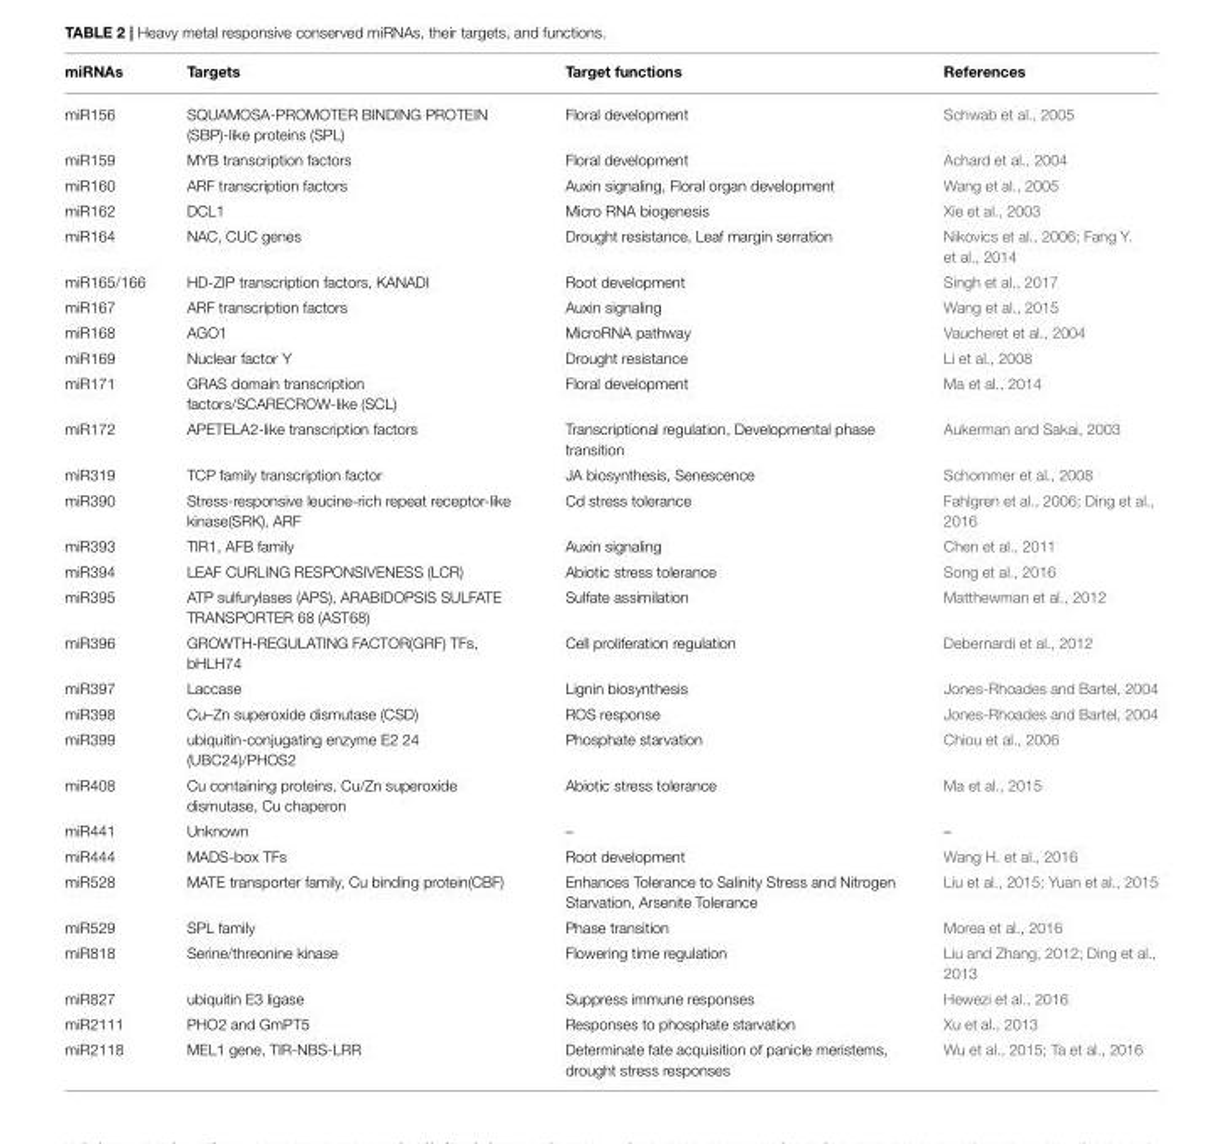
<table><thead><tr><td>miRNAs</td><td>Targets</td><td>Target functions</td><td>References</td></tr></thead><tbody><tr><td>miR156</td><td>SQUAMOSA-PROMOTER BINDING PROTEIN (SBP)-like proteins (SPL)</td><td>Floral development</td><td>Schwab et al., 2005</td></tr><tr><td>miR159</td><td>MYB transcription factors</td><td>Floral development</td><td>Achard et al., 2004</td></tr><tr><td>miR160</td><td>ARF transcription factors</td><td>Auxin signaling, Floral organ development</td><td>Wang et al., 2005</td></tr><tr><td>miR162</td><td>DCL1</td><td>Micro RNA biogenesis</td><td>Xie et al., 2003</td></tr><tr><td>miR164</td><td>NAC, CUC genes</td><td>Drought resistance, Leaf margin serration</td><td>Nikovics et al., 2006; Fang Y. et al., 2014</td></tr><tr><td>miR165/166</td><td>HD-ZIP transcription factors, KANADI</td><td>Root development</td><td>Singh et al., 2017</td></tr><tr><td>miR167</td><td>ARF transcription factors</td><td>Auxin signaling</td><td>Wang et al., 2015</td></tr><tr><td>miR168</td><td>AGO1</td><td>MicroRNA pathway</td><td>Vaucheret et al., 2004</td></tr><tr><td>miR169</td><td>Nuclear factor Y</td><td>Drought resistance</td><td>Li et al., 2008</td></tr><tr><td>miR171</td><td>GRAS domain transcription factors/SCARECROW-like (SCL)</td><td>Floral development</td><td>Ma et al., 2014</td></tr><tr><td>miR172</td><td>APETELA2-like transcription factors</td><td>Transcriptional regulation, Developmental phase transition</td><td>Aukerman and Sakai, 2003</td></tr><tr><td>miR319</td><td>TCP family transcription factor</td><td>JA biosynthesis, Senescence</td><td>Schommer et al., 2008</td></tr><tr><td>miR390</td><td>Stress-responsive leucine-rich repeat receptor-like kinase(SRK), ARF</td><td>Cd stress tolerance</td><td>Fahlgren et al., 2006; Ding et al., 2016</td></tr><tr><td>miR393</td><td>TIR1, AFB family</td><td>Auxin signaling</td><td>Chen et al., 2011</td></tr><tr><td>miR394</td><td>LEAF CURLING RESPONSIVENESS (LCR)</td><td>Abiotic stress tolerance</td><td>Song et al., 2016</td></tr><tr><td>miR395</td><td>ATP sulfurylases (APS), ARABIDOPSIS SULFATE TRANSPORTER 68 (AST68)</td><td>Sulfate assimilation</td><td>Matthewman et al., 2012</td></tr><tr><td>miR396</td><td>GROWTH-REGULATING FACTOR(GRF) TFs, bHLH74</td><td>Cell proliferation regulation</td><td>Debernardi et al., 2012</td></tr><tr><td>miR397</td><td>Laccase</td><td>Lignin biosynthesis</td><td>Jones-Rhoades and Bartel, 2004</td></tr><tr><td>miR398</td><td>Cu–Zn superoxide dismutase (CSD)</td><td>ROS response</td><td>Jones-Rhoades and Bartel, 2004</td></tr><tr><td>miR399</td><td>ubiquitin-conjugating enzyme E2 24 (UBC24)/PHOS2</td><td>Phosphate starvation</td><td>Chiou et al., 2006</td></tr><tr><td>miR408</td><td>Cu containing proteins, Cu/Zn superoxide dismutase, Cu chaperon</td><td>Abiotic stress tolerance</td><td>Ma et al., 2015</td></tr><tr><td>miR441</td><td>Unknown</td><td>–</td><td>–</td></tr><tr><td>miR444</td><td>MADS-box TFs</td><td>Root development</td><td>Wang H. et al., 2016</td></tr><tr><td>miR528</td><td>MATE transporter family, Cu binding protein(CBF)</td><td>Enhances Tolerance to Salinity Stress and Nitrogen Starvation, Arsenite Tolerance</td><td>Liu et al., 2015; Yuan et al., 2015</td></tr><tr><td>miR529</td><td>SPL family</td><td>Phase transition</td><td>Morea et al., 2016</td></tr><tr><td>miR818</td><td>Serine/threonine kinase</td><td>Flowering time regulation</td><td>Liu and Zhang, 2012; Ding et al., 2013</td></tr><tr><td>miR827</td><td>ubiquitin E3 ligase</td><td>Suppress immune responses</td><td>Hewezi et al., 2016</td></tr><tr><td>miR2111</td><td>PHO2 and GmPT5</td><td>Responses to phosphate starvation</td><td>Xu et al., 2013</td></tr><tr><td>miR2118</td><td>MEL1 gene, TIR-NBS-LRR</td><td>Determinate fate acquisition of panicle meristems, drought stress responses</td><td>Wu et al., 2015; Ta et al., 2016</td></tr></tbody></table>